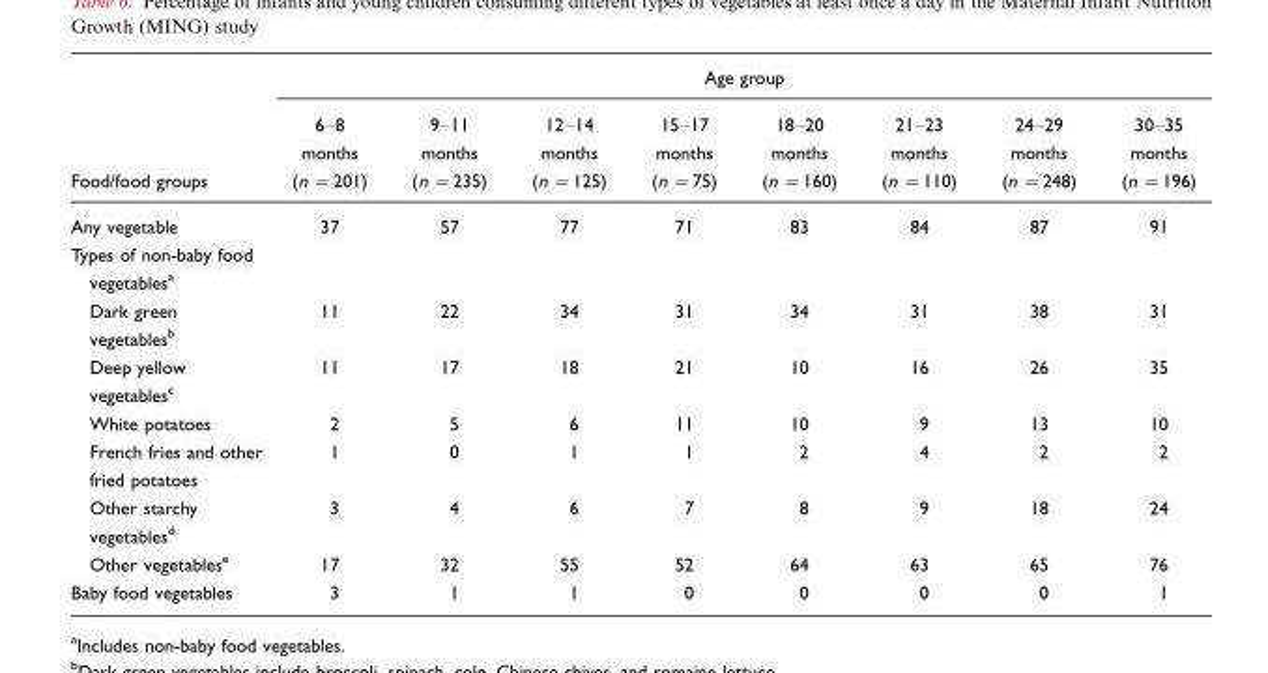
<table><thead><tr><td rowspan="2">Food/food groups</td><td colspan="8">Age group</td></tr><tr><td>6–8 months (n =201)</td><td>9–11 months (n =235)</td><td>12–14 months (n =125)</td><td>15–17 months (n =75)</td><td>18–20 months (n =160)</td><td>21–23 months (n =110)</td><td>24–29 months (n =248)</td><td>30–35 months (n =196)</td></tr></thead><tbody><tr><td>Any vegetable</td><td>37</td><td>57</td><td>77</td><td>71</td><td>83</td><td>84</td><td>87</td><td>91</td></tr><tr><td colspan="9">Types of non-baby food vegetables<sup>a</sup></td></tr><tr><td>Dark green vegetables<sup>b</sup></td><td>11</td><td>22</td><td>34</td><td>31</td><td>34</td><td>31</td><td>38</td><td>31</td></tr><tr><td>Deep yellow vegetables<sup>c</sup></td><td>11</td><td>17</td><td>18</td><td>21</td><td>10</td><td>16</td><td>26</td><td>35</td></tr><tr><td>White potatoes</td><td>2</td><td>5</td><td>6</td><td>11</td><td>10</td><td>9</td><td>13</td><td>10</td></tr><tr><td>French fries and other fried potatoes</td><td>1</td><td>0</td><td>1</td><td>1</td><td>2</td><td>4</td><td>2</td><td>2</td></tr><tr><td>Other starchy vegetables<sup>d</sup></td><td>3</td><td>4</td><td>6</td><td>7</td><td>8</td><td>9</td><td>18</td><td>24</td></tr><tr><td>Other vegetables<sup>e</sup></td><td>17</td><td>32</td><td>55</td><td>52</td><td>64</td><td>63</td><td>65</td><td>76</td></tr><tr><td>Baby food vegetables</td><td>3</td><td>1</td><td>1</td><td>0</td><td>0</td><td>0</td><td>0</td><td>1</td></tr></tbody></table>